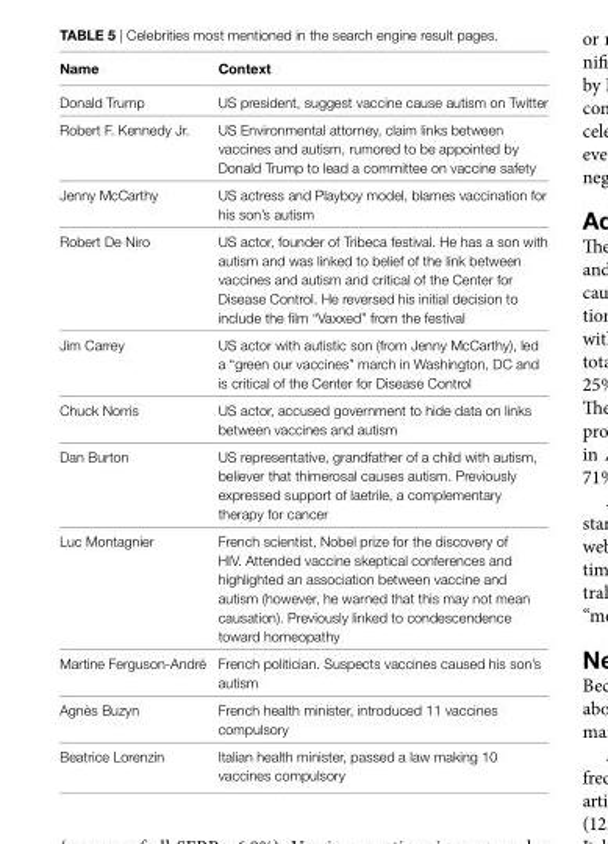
<table><thead><tr><td>name</td><td>context</td></tr></thead><tbody><tr><td>Donald Trump</td><td>US president, suggest vaccine cause autism on Twitter</td></tr><tr><td>Robert F. Kennedy Jr.</td><td>US Environmental attorney, claim links between vaccines and autism, rumored to be appointed by Donald Trump to lead a committee on vaccine safety</td></tr><tr><td>Jenny McCarthy</td><td>US actress and Playboy model, blames vaccination for his son’s autism</td></tr><tr><td>Robert De Niro</td><td>US actor, founder of Tribeca festival. He has a son with autism and was linked to belief of the link between vaccines and autism and critical of the Center for Disease Control. He reversed his initial decision to include the film “Vaxxed” from the festival</td></tr><tr><td>Jim Carrey</td><td>US actor with autistic son (from Jenny McCarthy), led a “green our vaccines” march in Washington, DC and is critical of the Center for Disease Control</td></tr><tr><td>Chuck Norris</td><td>US actor, accused government to hide data on links between vaccines and autism</td></tr><tr><td>Dan Burton</td><td>US representative, grandfather of a child with autism, believer that thimerosal causes autism. Previously expressed support of laetrile, a complementary therapy for cancer</td></tr><tr><td>Luc Montagnier</td><td>French scientist, Nobel prize for the discovery of HIV. Attended vaccine skeptical conferences and highlighted an association between vaccine and autism (however, he warned that this may not mean causation). Previously linked to condescendence toward homeopathy</td></tr><tr><td>Martine Ferguson-André</td><td>French politician. Suspects vaccines caused his son’s autism</td></tr><tr><td>Agnès Buzyn</td><td>French health minister, introduced 11 vaccines compulsory</td></tr><tr><td>Beatrice Lorenzin</td><td>Italian health minister, passed a law making 10 vaccines compulsory</td></tr></tbody></table>